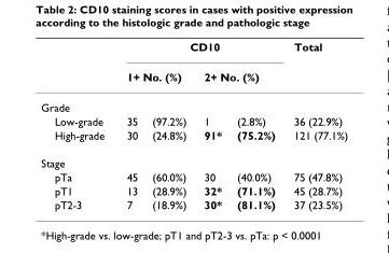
<table><thead><tr><td rowspan="3">Grade</td><td colspan="4">CD10</td><td rowspan="3">Total</td></tr><tr><td colspan="2">1+ No. (%)</td><td colspan="2">2+ No. (%)</td></tr><tr><td></td><td></td><td></td><td></td></tr></thead><tbody><tr><td>Low-grade</td><td>35</td><td>(97.2%)</td><td>1</td><td>(2.8%)</td><td>36 (22.9%)</td></tr><tr><td>High-grade</td><td>30</td><td>(24.8%)</td><td>91*</td><td>(75.2%)</td><td>121 (77.1%)</td></tr><tr><td colspan="6">Stage</td></tr><tr><td>pTa</td><td>45</td><td>(60.0%)</td><td>30</td><td>(40.0%)</td><td>75 (47.8%)</td></tr><tr><td>pT1</td><td>13</td><td>(28.9%)</td><td>32*</td><td>(71.1%)</td><td>45 (28.7%)</td></tr><tr><td>pT2-3</td><td>7</td><td>(18.9%)</td><td>30*</td><td>(81.1%)</td><td>37 (23.5%)</td></tr></tbody></table>